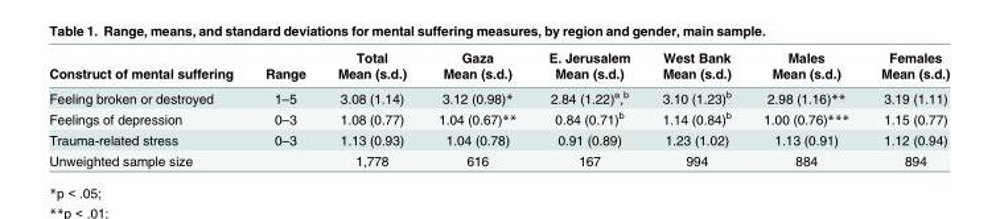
<table><thead><tr><td rowspan="2">Construct of mental suffering</td><td rowspan="2">Range</td><td rowspan="2">Total Mean (s.d.)</td><td rowspan="2">Gaza Mean (s.d.)</td><td rowspan="2">E. Jerusalem Mean (s.d.)</td><td rowspan="2">West Bank Mean (s.d.)</td><td rowspan="2">Males Mean (s.d.)</td><td rowspan="2">Females Mean (s.d.)</td></tr><tr></tr></thead><tbody><tr><td>Feeling broken or destroyed</td><td>1–5</td><td>3.08 (1.14)</td><td>3.12 (0.98)*</td><td>2.84 (1.22)<sup>a</sup>,<sup>b</sup></td><td>3.10 (1.23)<sup>b</sup></td><td>2.98 (1.16)**</td><td>3.19 (1.11)</td></tr><tr><td>Feelings of depression</td><td>0–3</td><td>1.08 (0.77)</td><td>1.04 (0.67)**</td><td>0.84 (0.71)<sup>b</sup></td><td>1.14 (0.84)<sup>b</sup></td><td>1.00 (0.76)***</td><td>1.15 (0.77)</td></tr><tr><td>Trauma-related stress</td><td>0–3</td><td>1.13 (0.93)</td><td>1.04 (0.78)</td><td>0.91 (0.89)</td><td>1.23 (1.02)</td><td>1.13 (0.91)</td><td>1.12 (0.94)</td></tr><tr><td>Unweighted sample size</td><td></td><td>1,778</td><td>616</td><td>167</td><td>994</td><td>884</td><td>894</td></tr></tbody></table>